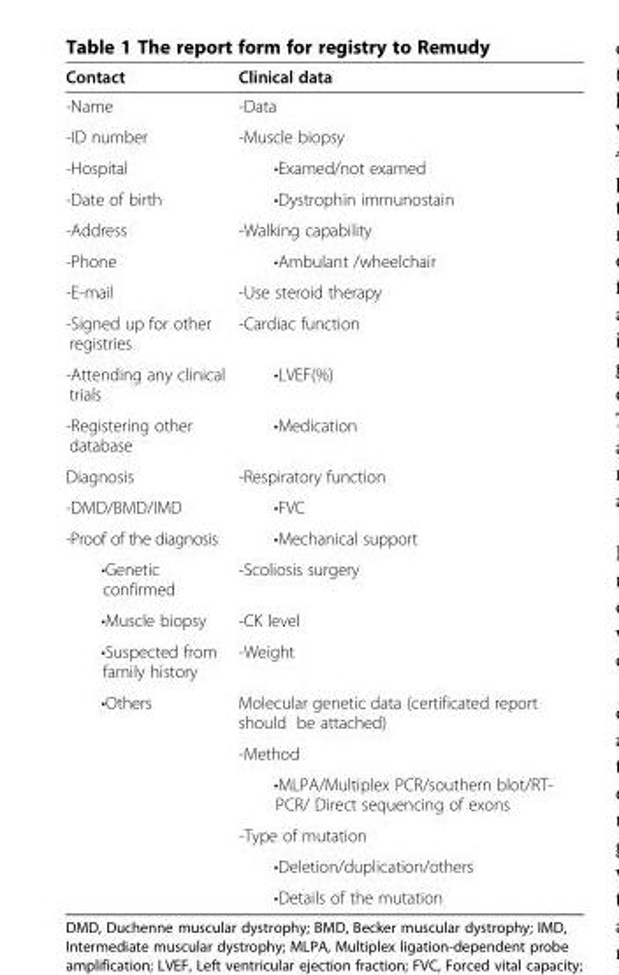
<table><thead><tr><td>Contact</td><td>Clinical data</td></tr></thead><tbody><tr><td>-Name</td><td>-Data</td></tr><tr><td>-ID number</td><td>-Muscle biopsy</td></tr><tr><td>-Hospital</td><td>•Examed/not examed</td></tr><tr><td>-Date of birth</td><td>•Dystrophin immunostain</td></tr><tr><td>-Address</td><td>-Walking capability</td></tr><tr><td>-Phone</td><td>•Ambulant /wheelchair</td></tr><tr><td>-E-mail</td><td>-Use steroid therapy</td></tr><tr><td>-Signed up for other registries</td><td>-Cardiac function</td></tr><tr><td>-Attending any clinical trials</td><td>•LVEF(%)</td></tr><tr><td>-Registering other database</td><td>•Medication</td></tr><tr><td>Diagnosis</td><td>-Respiratory function</td></tr><tr><td>-DMD/BMD/IMD</td><td>•FVC</td></tr><tr><td>-Proof of the diagnosis</td><td>•Mechanical support</td></tr><tr><td>•Genetic confirmed</td><td>-Scoliosis surgery</td></tr><tr><td>•Muscle biopsy</td><td>-CK level</td></tr><tr><td>•Suspected from family history</td><td>-Weight</td></tr><tr><td rowspan="6">•Others</td><td>Molecular genetic data (certificated report should be attached)</td></tr><tr><td>-Method</td></tr><tr><td>•MLPA/Multiplex PCR/southern blot/RT- PCR/ Direct sequencing of exons</td></tr><tr><td>-Type of mutation</td></tr><tr><td>•Deletion/duplication/others</td></tr><tr><td>•Details of the mutation</td></tr></tbody></table>